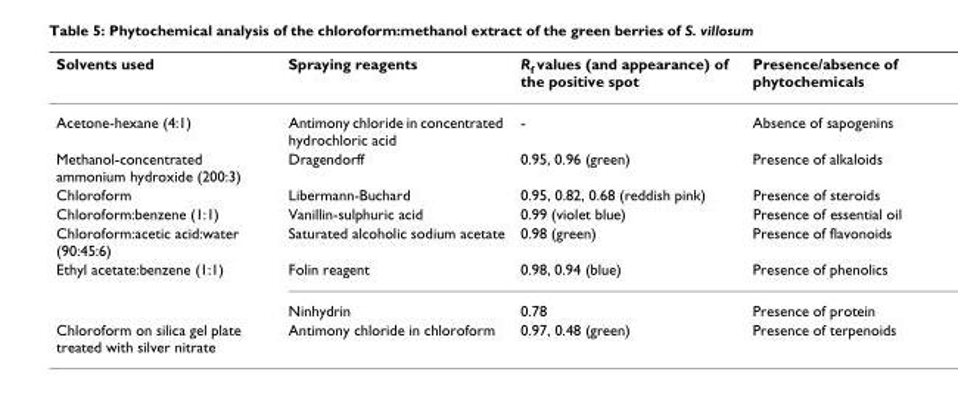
<table><thead><tr><td>Solvents used</td><td>Spraying reagents</td><td>R<sub>f</sub> values (and appearance) of the positive spot</td><td>Presence/absence of phytochemicals</td></tr></thead><tbody><tr><td>Acetone-hexane (4:1)</td><td>Antimony chloride in concentrated hydrochloric acid</td><td>-</td><td>Absence of sapogenins</td></tr><tr><td>Methanol-concentrated ammonium hydroxide (200:3)</td><td>Dragendorff</td><td>0.95, 0.96 (green)</td><td>Presence of alkaloids</td></tr><tr><td>Chloroform</td><td>Libermann-Buchard</td><td>0.95, 0.82, 0.68 (reddish pink)</td><td>Presence of steroids</td></tr><tr><td>Chloroform:benzene (1:1)</td><td>Vanillin-sulphuric acid</td><td>0.99 (violet blue)</td><td>Presence of essential oil</td></tr><tr><td>Chloroform:acetic acid:water (90:45:6)</td><td>Saturated alcoholic sodium acetate</td><td>0.98 (green)</td><td>Presence of flavonoids</td></tr><tr><td rowspan="2">Ethyl acetate:benzene (1:1)</td><td>Folin reagent</td><td>0.98, 0.94 (blue)</td><td>Presence of phenolics</td></tr><tr><td>Ninhydrin</td><td>0.78</td><td>Presence of protein</td></tr><tr><td>Chloroform on silica gel plate treated with silver nitrate</td><td>Antimony chloride in chloroform</td><td>0.97, 0.48 (green)</td><td>Presence of terpenoids</td></tr></tbody></table>